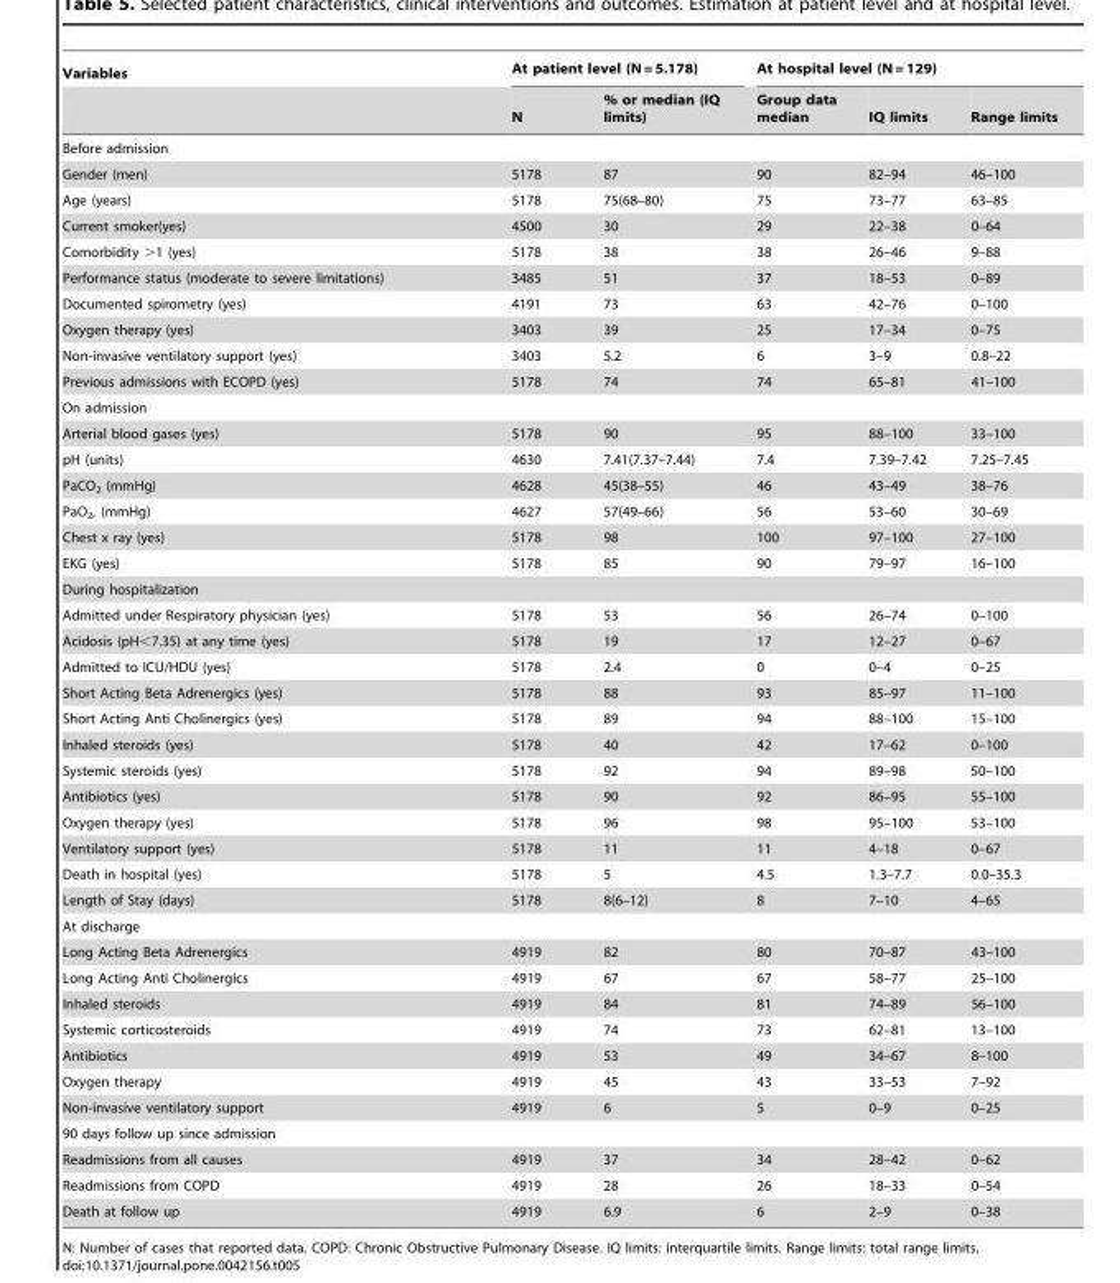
<table><thead><tr><td rowspan="2">Variables</td><td colspan="2">At patient level (N = 5.178)</td><td colspan="3">At hospital level (N = 129)</td></tr><tr><td>N</td><td>% or median (IQ limits)</td><td>Group data median</td><td>IQ limits</td><td>Range limits</td></tr></thead><tbody><tr><td colspan="6">Before admission</td></tr><tr><td>Gender (men)</td><td>5178</td><td>87</td><td>90</td><td>82–94</td><td>46–100</td></tr><tr><td>Age (years)</td><td>5178</td><td>75(68–80)</td><td>75</td><td>73–77</td><td>63–85</td></tr><tr><td>Current smoker(yes)</td><td>4500</td><td>30</td><td>29</td><td>22–38</td><td>0–64</td></tr><tr><td>Comorbidity &gt;1 (yes)</td><td>5178</td><td>38</td><td>38</td><td>26–46</td><td>9–88</td></tr><tr><td>Performance status (moderate to severe limitations)</td><td>3485</td><td>51</td><td>37</td><td>18–53</td><td>0–89</td></tr><tr><td>Documented spirometry (yes)</td><td>4191</td><td>73</td><td>63</td><td>42–76</td><td>0–100</td></tr><tr><td>Oxygen therapy (yes)</td><td>3403</td><td>39</td><td>25</td><td>17–34</td><td>0–75</td></tr><tr><td>Non-invasive ventilatory support (yes)</td><td>3403</td><td>5.2</td><td>6</td><td>3–9</td><td>0.8–22</td></tr><tr><td>Previous admissions with ECOPD (yes)</td><td>5178</td><td>74</td><td>74</td><td>65–81</td><td>41–100</td></tr><tr><td colspan="6">On admission</td></tr><tr><td>Arterial blood gases (yes)</td><td>5178</td><td>90</td><td>95</td><td>88–100</td><td>33–100</td></tr><tr><td>pH (units)</td><td>4630</td><td>7.41(7.37–7.44)</td><td>7.4</td><td>7.39–7.42</td><td>7.25–7.45</td></tr><tr><td>PaCO<sub>2</sub> (mmHg)</td><td>4628</td><td>45(38–55)</td><td>46</td><td>43–49</td><td>38–76</td></tr><tr><td>PaO<sub>2</sub>, (mmHg)</td><td>4627</td><td>57(49–66)</td><td>56</td><td>53–60</td><td>30–69</td></tr><tr><td>Chest x ray (yes)</td><td>5178</td><td>98</td><td>100</td><td>97–100</td><td>27–100</td></tr><tr><td>EKG (yes)</td><td>5178</td><td>85</td><td>90</td><td>79–97</td><td>16–100</td></tr><tr><td colspan="6">During hospitalization</td></tr><tr><td>Admitted under Respiratory physician (yes)</td><td>5178</td><td>53</td><td>56</td><td>26–74</td><td>0–100</td></tr><tr><td>Acidosis (pH&lt;7.35) at any time (yes)</td><td>5178</td><td>19</td><td>17</td><td>12–27</td><td>0–67</td></tr><tr><td>Admitted to ICU/HDU (yes)</td><td>5178</td><td>2.4</td><td>0</td><td>0–4</td><td>0–25</td></tr><tr><td>Short Acting Beta Adrenergics (yes)</td><td>5178</td><td>88</td><td>93</td><td>85–97</td><td>11–100</td></tr><tr><td>Short Acting Anti Cholinergics (yes)</td><td>5178</td><td>89</td><td>94</td><td>88–100</td><td>15–100</td></tr><tr><td>Inhaled steroids (yes)</td><td>5178</td><td>40</td><td>42</td><td>17–62</td><td>0–100</td></tr><tr><td>Systemic steroids (yes)</td><td>5178</td><td>92</td><td>94</td><td>89–98</td><td>50–100</td></tr><tr><td>Antibiotics (yes)</td><td>5178</td><td>90</td><td>92</td><td>86–95</td><td>55–100</td></tr><tr><td>Oxygen therapy (yes)</td><td>5178</td><td>96</td><td>98</td><td>95–100</td><td>53–100</td></tr><tr><td>Ventilatory support (yes)</td><td>5178</td><td>11</td><td>11</td><td>4–18</td><td>0–67</td></tr><tr><td>Death in hospital (yes)</td><td>5178</td><td>5</td><td>4.5</td><td>1.3–7.7</td><td>0.0–35.3</td></tr><tr><td>Length of Stay (days)</td><td>5178</td><td>8(6–12)</td><td>8</td><td>7–10</td><td>4–65</td></tr><tr><td colspan="6">At discharge</td></tr><tr><td>Long Acting Beta Adrenergics</td><td>4919</td><td>82</td><td>80</td><td>70–87</td><td>43–100</td></tr><tr><td>Long Acting Anti Cholinergics</td><td>4919</td><td>67</td><td>67</td><td>58–77</td><td>25–100</td></tr><tr><td>Inhaled steroids</td><td>4919</td><td>84</td><td>81</td><td>74–89</td><td>56–100</td></tr><tr><td>Systemic corticosteroids</td><td>4919</td><td>74</td><td>73</td><td>62–81</td><td>13–100</td></tr><tr><td>Antibiotics</td><td>4919</td><td>53</td><td>49</td><td>34–67</td><td>8–100</td></tr><tr><td>Oxygen therapy</td><td>4919</td><td>45</td><td>43</td><td>33–53</td><td>7–92</td></tr><tr><td>Non-invasive ventilatory support</td><td>4919</td><td>6</td><td>5</td><td>0–9</td><td>0–25</td></tr><tr><td colspan="6">90 days follow up since admission</td></tr><tr><td>Readmissions from all causes</td><td>4919</td><td>37</td><td>34</td><td>28–42</td><td>0–62</td></tr><tr><td>Readmissions from COPD</td><td>4919</td><td>28</td><td>26</td><td>18–33</td><td>0–54</td></tr><tr><td>Death at follow up</td><td>4919</td><td>6.9</td><td>6</td><td>2–9</td><td>0–38</td></tr></tbody></table>